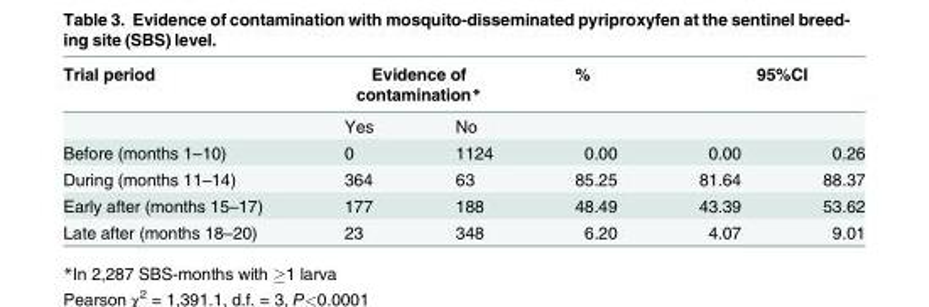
<table><thead><tr><td rowspan="3">Trial period Before (months 1–10)</td><td colspan="2">Evidence of contamination*</td><td rowspan="3">% 0.00</td><td rowspan="2" colspan="2">95%CI</td></tr><tr><td rowspan="2">Yes 0</td><td rowspan="2">No 1124</td></tr><tr><td>0.00</td><td>0.26</td></tr></thead><tbody><tr><td>During (months 11–14)</td><td>364</td><td>63</td><td>85.25</td><td>81.64</td><td>88.37</td></tr><tr><td>Early after (months 15–17)</td><td>177</td><td>188</td><td>48.49</td><td>43.39</td><td>53.62</td></tr><tr><td>Late after (months 18–20)</td><td>23</td><td>348</td><td>6.20</td><td>4.07</td><td>9.01</td></tr></tbody></table>